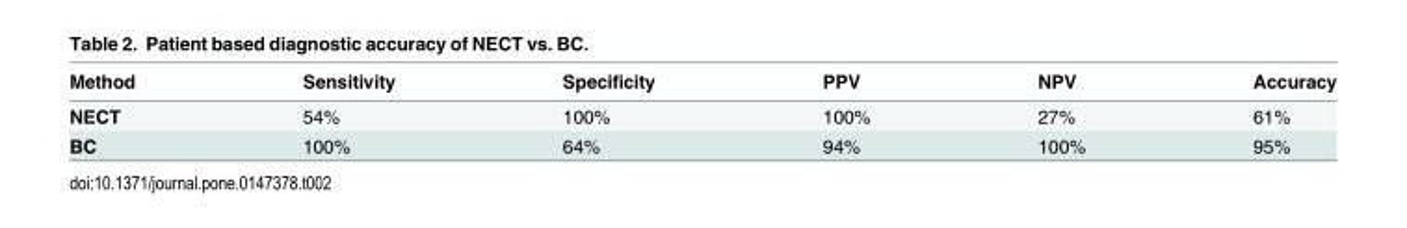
<table><thead><tr><td>Method</td><td>Sensitivity</td><td>Specificity</td><td>PPV</td><td>NPV</td><td>Accuracy</td></tr></thead><tbody><tr><td>NECT</td><td>54%</td><td>100%</td><td>100%</td><td>27%</td><td>61%</td></tr><tr><td>BC</td><td>100%</td><td>64%</td><td>94%</td><td>100%</td><td>95%</td></tr></tbody></table>